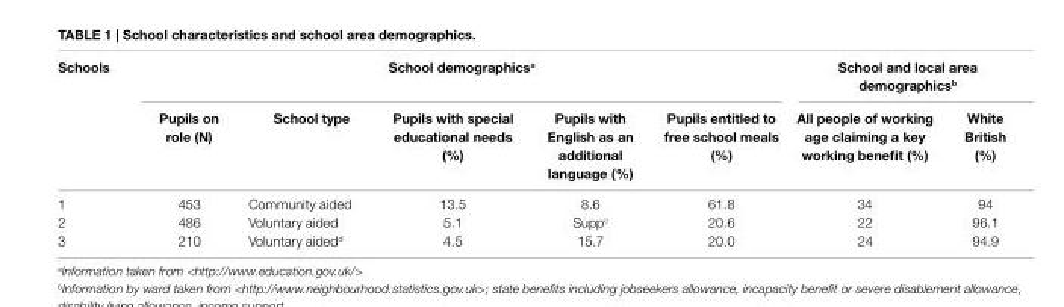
<table><thead><tr><td rowspan="2">schools</td><td colspan="5">school demographics<sup>a</sup></td><td colspan="2">school and local area demographics<sup>b</sup></td></tr><tr><td>Pupils on role (n)</td><td>school type</td><td>Pupils with special educational needs (%)</td><td>Pupils with english as an additional language (%)</td><td>Pupils entitled to free school meals (%)</td><td>all people of working age claiming a key working benefit (%)</td><td>White british (%)</td></tr></thead><tbody><tr><td>1</td><td>453</td><td>Community aided</td><td>13.5</td><td>8.6</td><td>61.8</td><td>34</td><td>94</td></tr><tr><td>2</td><td>486</td><td>Voluntary aided</td><td>5.1</td><td>Supp<sup>c</sup></td><td>20.6</td><td>22</td><td>96.1</td></tr><tr><td>3</td><td>210</td><td>Voluntary aided<sup>d</sup></td><td>4.5</td><td>15.7</td><td>20.0</td><td>24</td><td>94.9</td></tr></tbody></table>